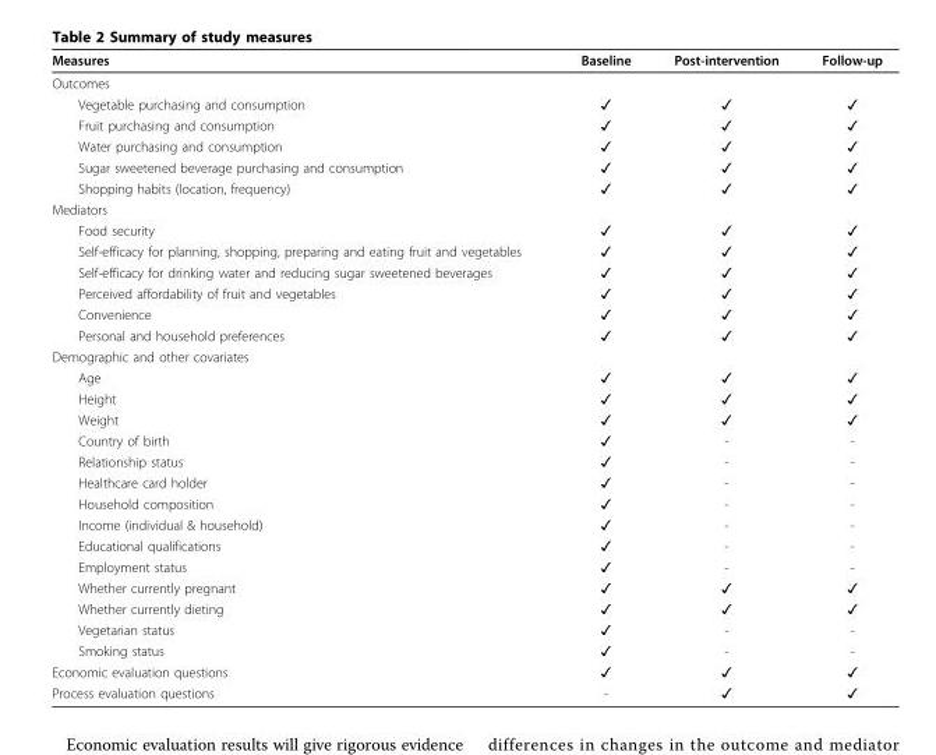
<table><thead><tr><td>Measures</td><td>Baseline</td><td>Post-intervention</td><td>Follow-up</td></tr></thead><tbody><tr><td colspan="4">Outcomes</td></tr><tr><td>Vegetable purchasing and consumption</td><td>✓</td><td>✓</td><td>✓</td></tr><tr><td>Fruit purchasing and consumption</td><td>✓</td><td>✓</td><td>✓</td></tr><tr><td>Water purchasing and consumption</td><td>✓</td><td>✓</td><td>✓</td></tr><tr><td>Sugar sweetened beverage purchasing and consumption</td><td>✓</td><td>✓</td><td>✓</td></tr><tr><td>Shopping habits (location, frequency)</td><td>✓</td><td>✓</td><td>✓</td></tr><tr><td colspan="4">Mediators</td></tr><tr><td>Food security</td><td>✓</td><td>✓</td><td>✓</td></tr><tr><td>Self-efficacy for planning, shopping, preparing and eating fruit and vegetables</td><td>✓</td><td>✓</td><td>✓</td></tr><tr><td>Self-efficacy for drinking water and reducing sugar sweetened beverages</td><td>✓</td><td>✓</td><td>✓</td></tr><tr><td>Perceived affordability of fruit and vegetables</td><td>✓</td><td>✓</td><td>✓</td></tr><tr><td>Convenience</td><td>✓</td><td>✓</td><td>✓</td></tr><tr><td>Personal and household preferences</td><td>✓</td><td>✓</td><td>✓</td></tr><tr><td colspan="4">Demographic and other covariates</td></tr><tr><td>Age</td><td>✓</td><td>✓</td><td>✓</td></tr><tr><td>Height</td><td>✓</td><td>✓</td><td>✓</td></tr><tr><td>Weight</td><td>✓</td><td>✓</td><td>✓</td></tr><tr><td>Country of birth</td><td>✓</td><td>-</td><td>-</td></tr><tr><td>Relationship status</td><td>✓</td><td>-</td><td>-</td></tr><tr><td>Healthcare card holder</td><td>✓</td><td>-</td><td>-</td></tr><tr><td>Household composition</td><td>✓</td><td>-</td><td>-</td></tr><tr><td>Income (individual &amp; household)</td><td>✓</td><td>-</td><td>-</td></tr><tr><td>Educational qualifications</td><td>✓</td><td>-</td><td>-</td></tr><tr><td>Employment status</td><td>✓</td><td>-</td><td>-</td></tr><tr><td>Whether currently pregnant</td><td>✓</td><td>✓</td><td>✓</td></tr><tr><td>Whether currently dieting</td><td>✓</td><td>✓</td><td>✓</td></tr><tr><td>Vegetarian status</td><td>✓</td><td>-</td><td>-</td></tr><tr><td>Smoking status</td><td>✓</td><td>-</td><td>-</td></tr><tr><td>Economic evaluation questions</td><td>✓</td><td>✓</td><td>✓</td></tr><tr><td>Process evaluation questions</td><td>-</td><td>✓</td><td>✓</td></tr></tbody></table>